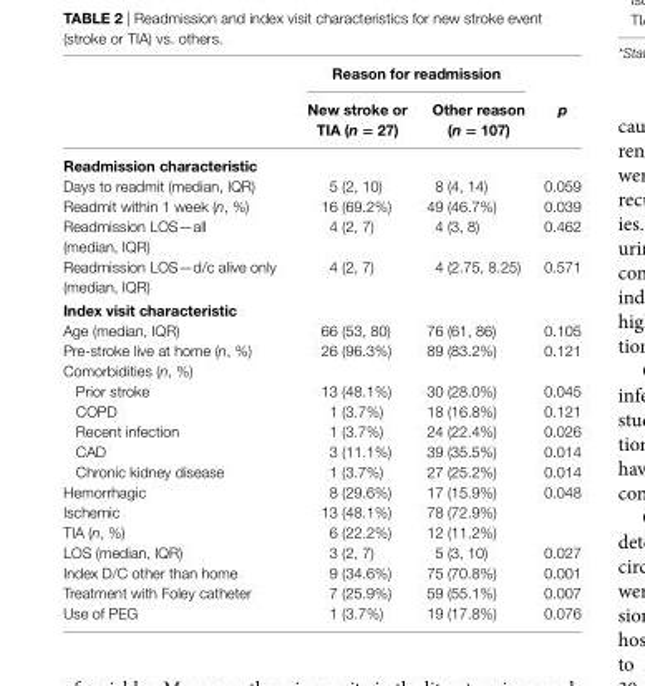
<table><thead><tr><td rowspan="2"></td><td colspan="2">reason for readmission</td><td rowspan="2">p</td></tr><tr><td>new stroke or Tia (n = 27)</td><td>Other reason (n = 107)</td></tr></thead><tbody><tr><td colspan="4">readmission characteristic</td></tr><tr><td>Days to readmit (median, IQR)</td><td>5 (2, 10)</td><td>8 (4, 14)</td><td>0.059</td></tr><tr><td>Readmit within 1 week (n, %)</td><td>16 (69.2%)</td><td>49 (46.7%)</td><td>0.039</td></tr><tr><td>Readmission LOS—all (median, IQR)</td><td>4 (2, 7)</td><td>4 (3, 8)</td><td>0.462</td></tr><tr><td>Readmission LOS—d/c alive only (median, IQR)</td><td>4 (2, 7)</td><td>4 (2.75, 8.25)</td><td>0.571</td></tr><tr><td colspan="4">index visit characteristic</td></tr><tr><td>Age (median, IQR)</td><td>66 (53, 80)</td><td>76 (61, 86)</td><td>0.105</td></tr><tr><td>Pre-stroke live at home (n, %)</td><td>26 (96.3%)</td><td>89 (83.2%)</td><td>0.121</td></tr><tr><td colspan="4">Comorbidities (n, %)</td></tr><tr><td>Prior stroke</td><td>13 (48.1%)</td><td>30 (28.0%)</td><td>0.045</td></tr><tr><td>COPD</td><td>1 (3.7%)</td><td>18 (16.8%)</td><td>0.121</td></tr><tr><td>Recent infection</td><td>1 (3.7%)</td><td>24 (22.4%)</td><td>0.026</td></tr><tr><td>CAD</td><td>3 (11.1%)</td><td>39 (35.5%)</td><td>0.014</td></tr><tr><td>Chronic kidney disease</td><td>1 (3.7%)</td><td>27 (25.2%)</td><td>0.014</td></tr><tr><td>Hemorrhagic</td><td>8 (29.6%)</td><td>17 (15.9%)</td><td>0.048</td></tr><tr><td>Ischemic</td><td>13 (48.1%)</td><td>78 (72.9%)</td><td></td></tr><tr><td>TIA (n, %)</td><td>6 (22.2%)</td><td>12 (11.2%)</td><td></td></tr><tr><td>LOS (median, IQR)</td><td>3 (2, 7)</td><td>5 (3, 10)</td><td>0.027</td></tr><tr><td>Index D/C other than home</td><td>9 (34.6%)</td><td>75 (70.8%)</td><td>0.001</td></tr><tr><td>Treatment with Foley catheter</td><td>7 (25.9%)</td><td>59 (55.1%)</td><td>0.007</td></tr><tr><td>Use of PEG</td><td>1 (3.7%)</td><td>19 (17.8%)</td><td>0.076</td></tr></tbody></table>